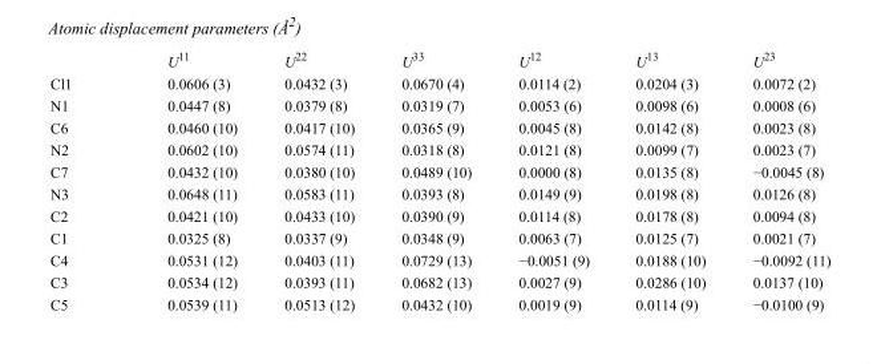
<table><thead><tr><td></td><td>U<sup>11</sup></td><td>U<sup>22</sup></td><td>U<sup>33</sup></td><td>U<sup>12</sup></td><td>U<sup>13</sup></td><td>U<sup>23</sup></td></tr></thead><tbody><tr><td>Cl1</td><td>0.0606 (3)</td><td>0.0432 (3)</td><td>0.0670 (4)</td><td>0.0114 (2)</td><td>0.0204 (3)</td><td>0.0072 (2)</td></tr><tr><td>N1</td><td>0.0447 (8)</td><td>0.0379 (8)</td><td>0.0319 (7)</td><td>0.0053 (6)</td><td>0.0098 (6)</td><td>0.0008 (6)</td></tr><tr><td>C6</td><td>0.0460 (10)</td><td>0.0417 (10)</td><td>0.0365 (9)</td><td>0.0045 (8)</td><td>0.0142 (8)</td><td>0.0023 (8)</td></tr><tr><td>N2</td><td>0.0602 (10)</td><td>0.0574 (11)</td><td>0.0318 (8)</td><td>0.0121 (8)</td><td>0.0099 (7)</td><td>0.0023 (7)</td></tr><tr><td>C7</td><td>0.0432 (10)</td><td>0.0380 (10)</td><td>0.0489 (10)</td><td>0.0000 (8)</td><td>0.0135 (8)</td><td>−0.0045 (8)</td></tr><tr><td>N3</td><td>0.0648 (11)</td><td>0.0583 (11)</td><td>0.0393 (8)</td><td>0.0149 (9)</td><td>0.0198 (8)</td><td>0.0126 (8)</td></tr><tr><td>C2</td><td>0.0421 (10)</td><td>0.0433 (10)</td><td>0.0390 (9)</td><td>0.0114 (8)</td><td>0.0178 (8)</td><td>0.0094 (8)</td></tr><tr><td>C1</td><td>0.0325 (8)</td><td>0.0337 (9)</td><td>0.0348 (9)</td><td>0.0063 (7)</td><td>0.0125 (7)</td><td>0.0021 (7)</td></tr><tr><td>C4</td><td>0.0531 (12)</td><td>0.0403 (11)</td><td>0.0729 (13)</td><td>−0.0051 (9)</td><td>0.0188 (10)</td><td>−0.0092 (11)</td></tr><tr><td>C3</td><td>0.0534 (12)</td><td>0.0393 (11)</td><td>0.0682 (13)</td><td>0.0027 (9)</td><td>0.0286 (10)</td><td>0.0137 (10)</td></tr><tr><td>C5</td><td>0.0539 (11)</td><td>0.0513 (12)</td><td>0.0432 (10)</td><td>0.0019 (9)</td><td>0.0114 (9)</td><td>−0.0100 (9)</td></tr></tbody></table>